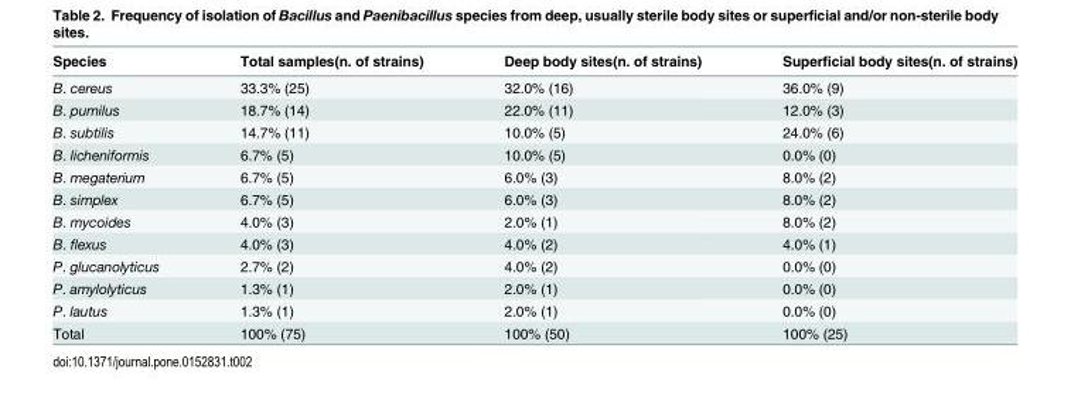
<table><thead><tr><td>Species</td><td>Total samples(n. of strains)</td><td>Deep body sites(n. of strains)</td><td>Superficial body sites(n. of strains)</td></tr></thead><tbody><tr><td>B. cereus</td><td>33.3% (25)</td><td>32.0% (16)</td><td>36.0% (9)</td></tr><tr><td>B. pumilus</td><td>18.7% (14)</td><td>22.0% (11)</td><td>12.0% (3)</td></tr><tr><td>B. subtilis</td><td>14.7% (11)</td><td>10.0% (5)</td><td>24.0% (6)</td></tr><tr><td>B. licheniformis</td><td>6.7% (5)</td><td>10.0% (5)</td><td>0.0% (0)</td></tr><tr><td>B. megaterium</td><td>6.7% (5)</td><td>6.0% (3)</td><td>8.0% (2)</td></tr><tr><td>B. simplex</td><td>6.7% (5)</td><td>6.0% (3)</td><td>8.0% (2)</td></tr><tr><td>B. mycoides</td><td>4.0% (3)</td><td>2.0% (1)</td><td>8.0% (2)</td></tr><tr><td>B. flexus</td><td>4.0% (3)</td><td>4.0% (2)</td><td>4.0% (1)</td></tr><tr><td>P. glucanolyticus</td><td>2.7% (2)</td><td>4.0% (2)</td><td>0.0% (0)</td></tr><tr><td>P. amylolyticus</td><td>1.3% (1)</td><td>2.0% (1)</td><td>0.0% (0)</td></tr><tr><td>P. lautus</td><td>1.3% (1)</td><td>2.0% (1)</td><td>0.0% (0)</td></tr><tr><td>Total</td><td>100% (75)</td><td>100% (50)</td><td>100% (25)</td></tr></tbody></table>